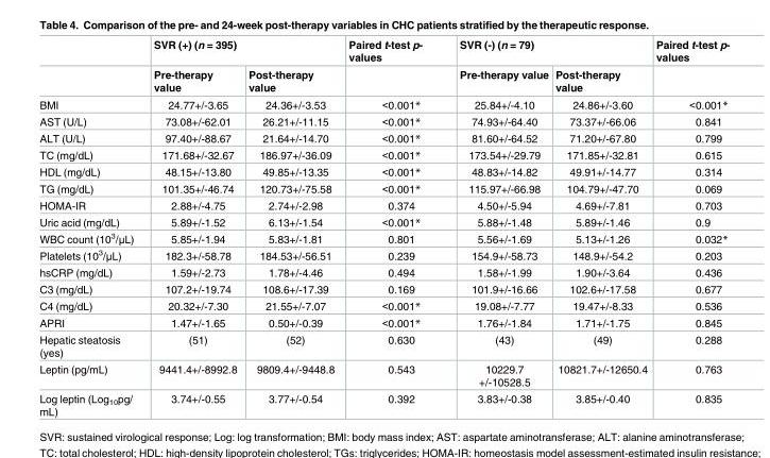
<table><thead><tr><td rowspan="2"></td><td colspan="2">SVR (+) (n = 395)</td><td rowspan="2">Paired t-test p- values</td><td colspan="2">SVR (-) (n = 79)</td><td rowspan="2">Paired t-test p- values</td></tr><tr><td>Pre-therapy value</td><td>Post-therapy value</td><td>Pre-therapy value</td><td>Post-therapy value</td></tr></thead><tbody><tr><td>BMI</td><td>24.77+/-3.65</td><td>24.36+/-3.53</td><td>&lt;0.001*</td><td>25.84+/-4.10</td><td>24.86+/-3.60</td><td>&lt;0.001*</td></tr><tr><td>AST (U/L)</td><td>73.08+/-62.01</td><td>26.21+/-11.15</td><td>&lt;0.001*</td><td>74.93+/-64.40</td><td>73.37+/-66.06</td><td>0.841</td></tr><tr><td>ALT (U/L)</td><td>97.40+/-88.67</td><td>21.64+/-14.70</td><td>&lt;0.001*</td><td>81.60+/-64.52</td><td>71.20+/-67.80</td><td>0.799</td></tr><tr><td>TC (mg/dL)</td><td>171.68+/-32.67</td><td>186.97+/-36.09</td><td>&lt;0.001*</td><td>173.54+/-29.79</td><td>171.85+/-32.81</td><td>0.615</td></tr><tr><td>HDL (mg/dL)</td><td>48.15+/-13.80</td><td>49.85+/-13.35</td><td>&lt;0.001*</td><td>48.83+/-14.82</td><td>49.91+/-14.77</td><td>0.314</td></tr><tr><td>TG (mg/dL)</td><td>101.35+/-46.74</td><td>120.73+/-75.58</td><td>&lt;0.001*</td><td>115.97+/-66.98</td><td>104.79+/-47.70</td><td>0.069</td></tr><tr><td>HOMA-IR</td><td>2.88+/-4.75</td><td>2.74+/-2.98</td><td>0.374</td><td>4.50+/-5.94</td><td>4.69+/-7.81</td><td>0.703</td></tr><tr><td>Uric acid (mg/dL)</td><td>5.89+/-1.52</td><td>6.13+/-1.54</td><td>&lt;0.001*</td><td>5.88+/-1.48</td><td>5.89+/-1.46</td><td>0.9</td></tr><tr><td>WBC count (10<sup>3</sup>/μL)</td><td>5.85+/-1.94</td><td>5.83+/-1.81</td><td>0.801</td><td>5.56+/-1.69</td><td>5.13+/-1.26</td><td>0.032*</td></tr><tr><td>Platelets (10<sup>3</sup>/μL)</td><td>182.3+/-58.78</td><td>184.53+/-56.51</td><td>0.239</td><td>154.9+/-58.73</td><td>148.9+/-54.2</td><td>0.203</td></tr><tr><td>hsCRP (mg/dL)</td><td>1.59+/-2.73</td><td>1.78+/-4.46</td><td>0.494</td><td>1.58+/-1.99</td><td>1.90+/-3.64</td><td>0.436</td></tr><tr><td>C3 (mg/dL)</td><td>107.2+/-19.74</td><td>108.6+/-17.39</td><td>0.169</td><td>101.9+/-16.66</td><td>102.6+/-17.58</td><td>0.677</td></tr><tr><td>C4 (mg/dL)</td><td>20.32+/-7.30</td><td>21.55+/-7.07</td><td>&lt;0.001*</td><td>19.08+/-7.77</td><td>19.47+/-8.33</td><td>0.536</td></tr><tr><td>APRI</td><td>1.47+/-1.65</td><td>0.50+/-0.39</td><td>&lt;0.001*</td><td>1.76+/-1.84</td><td>1.71+/-1.75</td><td>0.845</td></tr><tr><td>Hepatic steatosis (yes)</td><td>(51)</td><td>(52)</td><td>0.630</td><td>(43)</td><td>(49)</td><td>0.288</td></tr><tr><td>Leptin (pg/mL)</td><td>9441.4+/-8992.8</td><td>9809.4+/-9448.8</td><td>0.543</td><td>10229.7 +/-10528.5</td><td>10821.7+/-12650.4</td><td>0.763</td></tr><tr><td>Log leptin (Log<sub>10</sub>pg/ mL)</td><td>3.74+/-0.55</td><td>3.77+/-0.54</td><td>0.392</td><td>3.83+/-0.38</td><td>3.85+/-0.40</td><td>0.835</td></tr></tbody></table>